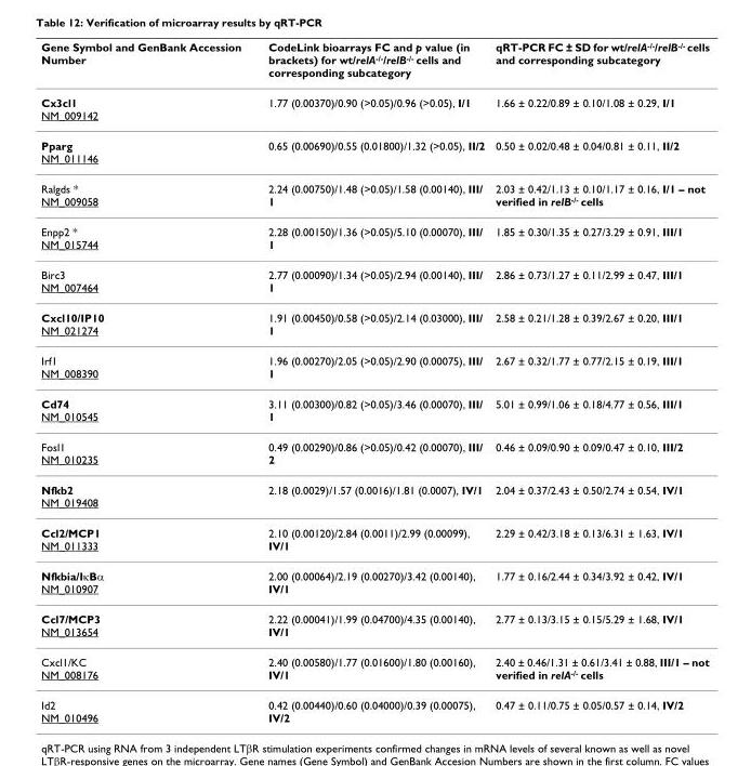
<table><thead><tr><td>Gene Symbol and GenBank Accession Number</td><td>CodeLink bioarrays FC and p value (in brackets) for wt/relA<sup>-/-</sup>/relB<sup>-/-</sup> cells and corresponding subcategory</td><td>qRT-PCR FC ± SD for wt/relA<sup>-/-</sup>/relB<sup>-/-</sup> cells and corresponding subcategory</td></tr></thead><tbody><tr><td>Cx3cl1 NM_009142</td><td>1.77 (0.00370)/0.90 (&gt;0.05)/0.96 (&gt;0.05), I/1</td><td>1.66 ± 0.22/0.89 ± 0.10/1.08 ± 0.29, I/1</td></tr><tr><td>Pparg NM_011146</td><td>0.65 (0.00690)/0.55 (0.01800)/1.32 (&gt;0.05), II/2</td><td>0.50 ± 0.02/0.48 ± 0.04/0.81 ± 0.11, II/2</td></tr><tr><td>Ralgds * NM_009058</td><td>2.24 (0.00750)/1.48 (&gt;0.05)/1.58 (0.00140), III/ 1</td><td>2.03 ± 0.42/1.13 ± 0.10/1.17 ± 0.16, I/1 – not verified in relB<sup>-/-</sup> cells</td></tr><tr><td>Enpp2 * NM_015744</td><td>2.28 (0.00150)/1.36 (&gt;0.05)/5.10 (0.00070), III/ 1</td><td>1.85 ± 0.30/1.35 ± 0.27/3.29 ± 0.91, III/1</td></tr><tr><td>Birc3 NM_007464</td><td>2.77 (0.00090)/1.34 (&gt;0.05)/2.94 (0.00140), III/ 1</td><td>2.86 ± 0.73/1.27 ± 0.11/2.99 ± 0.47, III/1</td></tr><tr><td>Cxcl10/IP10 NM_021274</td><td>1.91 (0.00450)/0.58 (&gt;0.05)/2.14 (0.03000), III/ 1</td><td>2.58 ± 0.21/1.28 ± 0.39/2.67 ± 0.20, III/1</td></tr><tr><td>Irf1 NM_008390</td><td>1.96 (0.00270)/2.05 (&gt;0.05)/2.90 (0.00075), III/ 1</td><td>2.67 ± 0.32/1.77 ± 0.77/2.15 ± 0.19, III/1</td></tr><tr><td>Cd74 NM_010545</td><td>3.11 (0.00300)/0.82 (&gt;0.05)/3.46 (0.00070), III/ 1</td><td>5.01 ± 0.99/1.06 ± 0.18/4.77 ± 0.56, III/1</td></tr><tr><td>Fosl1 NM_010235</td><td>0.49 (0.00290)/0.86 (&gt;0.05)/0.42 (0.00070), III/ 2</td><td>0.46 ± 0.09/0.90 ± 0.09/0.47 ± 0.10, III/2</td></tr><tr><td>Nfkb2 NM_019408</td><td>2.18 (0.0029)/1.57 (0.0016)/1.81 (0.0007), IV/1</td><td>2.04 ± 0.37/2.43 ± 0.50/2.74 ± 0.54, IV/1</td></tr><tr><td>Ccl2/MCP1 NM_011333</td><td>2.10 (0.00120)/2.84 (0.0011)/2.99 (0.00099), IV/1</td><td>2.29 ± 0.42/3.18 ± 0.13/6.31 ± 1.63, IV/1</td></tr><tr><td>Nfkbia/IκBα NM_010907</td><td>2.00 (0.00064)/2.19 (0.00270)/3.42 (0.00140), IV/1</td><td>1.77 ± 0.16/2.44 ± 0.34/3.92 ± 0.42, IV/1</td></tr><tr><td>Ccl7/MCP3 NM_013654</td><td>2.22 (0.00041)/1.99 (0.04700)/4.35 (0.00140), IV/1</td><td>2.77 ± 0.13/3.15 ± 0.15/5.29 ± 1.68, IV/1</td></tr><tr><td>Cxcl1/KC NM_008176</td><td>2.40 (0.00580)/1.77 (0.01600)/1.80 (0.00160), IV/1</td><td>2.40 ± 0.46/1.31 ± 0.61/3.41 ± 0.88, III/1 – not verified in relA<sup>-/-</sup> cells</td></tr><tr><td>Id2 NM_010496</td><td>0.42 (0.00440)/0.60 (0.04000)/0.39 (0.00075), IV/2</td><td>0.47 ± 0.11/0.75 ± 0.05/0.57 ± 0.14, IV/2</td></tr></tbody></table>